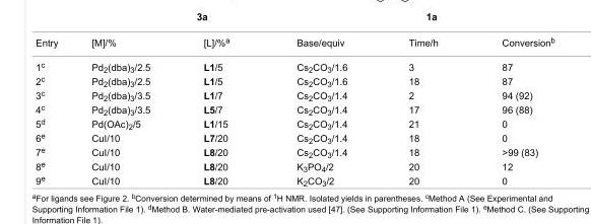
<table><tbody><tr><td>Entry</td><td>[M]/%</td><td>[L]/%<sup>a</sup></td><td>Base/equiv</td><td>Time/h</td><td>Conversion<sup>b</sup></td></tr><tr><td>1<sup>c</sup></td><td>Pd<sub>2</sub>(dba)<sub>3</sub>/2.5</td><td>L1/5</td><td>Cs<sub>2</sub>CO<sub>3</sub>/1.6</td><td>3</td><td>87</td></tr><tr><td>2<sup>c</sup></td><td>Pd<sub>2</sub>(dba)<sub>3</sub>/2.5</td><td>L1/5</td><td>Cs<sub>2</sub>CO<sub>3</sub>/1.6</td><td>18</td><td>87</td></tr><tr><td>3<sup>c</sup></td><td>Pd<sub>2</sub>(dba)<sub>3</sub>/3.5</td><td>L1/7</td><td>Cs<sub>2</sub>CO<sub>3</sub>/1.4</td><td>2</td><td>94 (92)</td></tr><tr><td>4<sup>c</sup></td><td>Pd<sub>2</sub>(dba)<sub>3</sub>/3.5</td><td>L5/7</td><td>Cs<sub>2</sub>CO<sub>3</sub>/1.4</td><td>17</td><td>96 (88)</td></tr><tr><td>5<sup>d</sup></td><td>Pd(OAc)<sub>2</sub>/5</td><td>L1/15</td><td>Cs<sub>2</sub>CO<sub>3</sub>/1.4</td><td>21</td><td>0</td></tr><tr><td>6<sup>e</sup></td><td>CuI/10</td><td>L7/20</td><td>Cs<sub>2</sub>CO<sub>3</sub>/1.4</td><td>18</td><td>0</td></tr><tr><td>7<sup>e</sup></td><td>CuI/10</td><td>L8/20</td><td>Cs<sub>2</sub>CO<sub>3</sub>/1.4</td><td>18</td><td>&gt;99 (83)</td></tr><tr><td>8<sup>e</sup></td><td>CuI/10</td><td>L8/20</td><td>K<sub>3</sub>PO<sub>4</sub>/2</td><td>20</td><td>12</td></tr><tr><td>9<sup>e</sup></td><td>CuI/10</td><td>L8/20</td><td>K<sub>2</sub>CO<sub>3</sub>/2</td><td>20</td><td>0</td></tr></tbody></table>